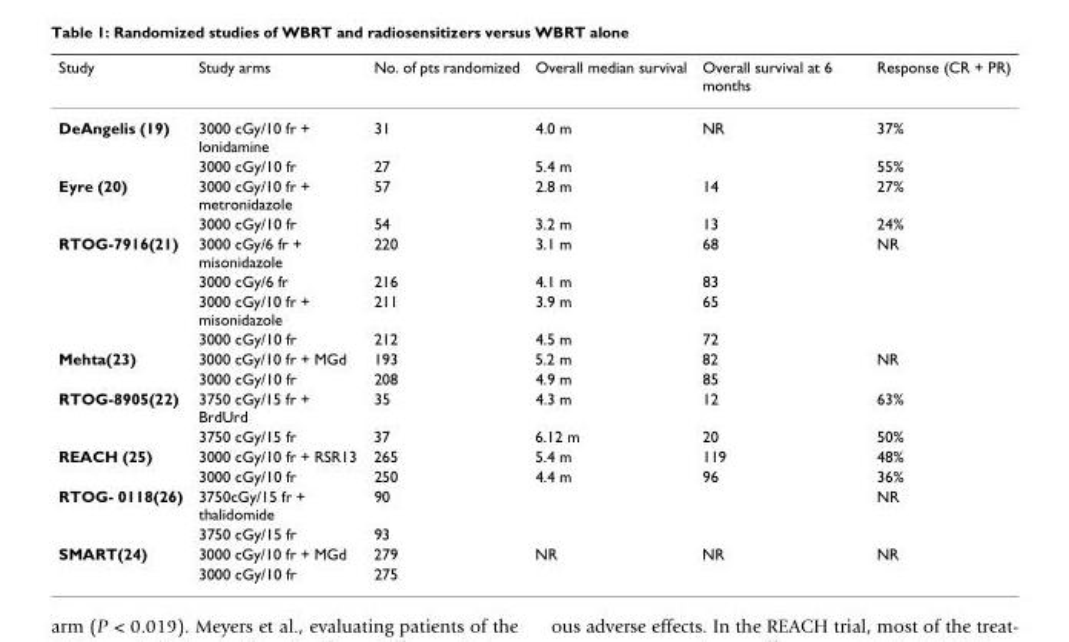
<table><thead><tr><td>Study</td><td>Study arms</td><td>No. of pts randomized</td><td>Overall median survival</td><td>Overall survival at 6 months</td><td>Response (CR + PR)</td></tr></thead><tbody><tr><td rowspan="2">DeAngelis (19)</td><td>3000 cGy/10 fr + lonidamine</td><td>31</td><td>4.0 m</td><td>NR</td><td>37%</td></tr><tr><td>3000 cGy/10 fr</td><td>27</td><td>5.4 m</td><td></td><td>55%</td></tr><tr><td rowspan="2">Eyre (20)</td><td>3000 cGy/10 fr + metronidazole</td><td>57</td><td>2.8 m</td><td>14</td><td>27%</td></tr><tr><td>3000 cGy/10 fr</td><td>54</td><td>3.2 m</td><td>13</td><td>24%</td></tr><tr><td rowspan="4">RTOG-7916(21)</td><td>3000 cGy/6 fr + misonidazole</td><td>220</td><td>3.1 m</td><td>68</td><td>NR</td></tr><tr><td>3000 cGy/6 fr</td><td>216</td><td>4.1 m</td><td>83</td><td></td></tr><tr><td>3000 cGy/10 fr + misonidazole</td><td>211</td><td>3.9 m</td><td>65</td><td></td></tr><tr><td>3000 cGy/10 fr</td><td>212</td><td>4.5 m</td><td>72</td><td></td></tr><tr><td rowspan="2">Mehta(23)</td><td>3000 cGy/10 fr + MGd</td><td>193</td><td>5.2 m</td><td>82</td><td>NR</td></tr><tr><td>3000 cGy/10 fr</td><td>208</td><td>4.9 m</td><td>85</td><td></td></tr><tr><td rowspan="2">RTOG-8905(22)</td><td>3750 cGy/15 fr + BrdUrd</td><td>35</td><td>4.3 m</td><td>12</td><td>63%</td></tr><tr><td>3750 cGy/15 fr</td><td>37</td><td>6.12 m</td><td>20</td><td>50%</td></tr><tr><td rowspan="2">REACH (25)</td><td>3000 cGy/10 fr + RSR13</td><td>265</td><td>5.4 m</td><td>119</td><td>48%</td></tr><tr><td>3000 cGy/10 fr</td><td>250</td><td>4.4 m</td><td>96</td><td>36%</td></tr><tr><td rowspan="2">RTOG- 0118(26)</td><td>3750cGy/15 fr + thalidomide</td><td>90</td><td></td><td></td><td>NR</td></tr><tr><td>3750 cGy/15 fr</td><td>93</td><td></td><td></td><td></td></tr><tr><td rowspan="2">SMART(24)</td><td>3000 cGy/10 fr + MGd</td><td>279</td><td>NR</td><td>NR</td><td>NR</td></tr><tr><td>3000 cGy/10 fr</td><td>275</td><td></td><td></td><td></td></tr></tbody></table>